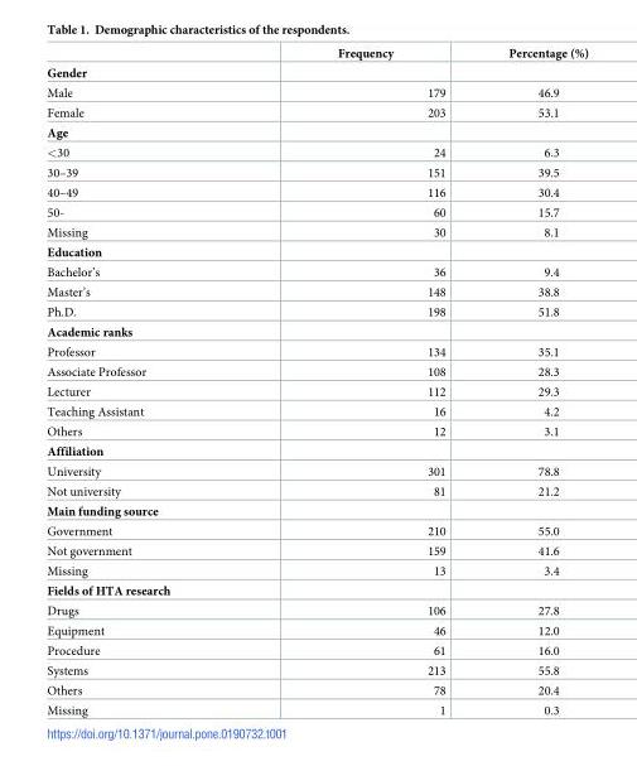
<table><thead><tr><td></td><td>Frequency</td><td>Percentage (%)</td></tr></thead><tbody><tr><td colspan="3">Gender</td></tr><tr><td>Male</td><td>179</td><td>46.9</td></tr><tr><td>Female</td><td>203</td><td>53.1</td></tr><tr><td colspan="3">Age</td></tr><tr><td>&lt;30</td><td>24</td><td>6.3</td></tr><tr><td>30–39</td><td>151</td><td>39.5</td></tr><tr><td>40–49</td><td>116</td><td>30.4</td></tr><tr><td>50-</td><td>60</td><td>15.7</td></tr><tr><td>Missing</td><td>30</td><td>8.1</td></tr><tr><td colspan="3">Education</td></tr><tr><td>Bachelor’s</td><td>36</td><td>9.4</td></tr><tr><td>Master’s</td><td>148</td><td>38.8</td></tr><tr><td>Ph.D.</td><td>198</td><td>51.8</td></tr><tr><td colspan="3">Academic ranks</td></tr><tr><td>Professor</td><td>134</td><td>35.1</td></tr><tr><td>Associate Professor</td><td>108</td><td>28.3</td></tr><tr><td>Lecturer</td><td>112</td><td>29.3</td></tr><tr><td>Teaching Assistant</td><td>16</td><td>4.2</td></tr><tr><td>Others</td><td>12</td><td>3.1</td></tr><tr><td colspan="3">Affiliation</td></tr><tr><td>University</td><td>301</td><td>78.8</td></tr><tr><td>Not university</td><td>81</td><td>21.2</td></tr><tr><td colspan="3">Main funding source</td></tr><tr><td>Government</td><td>210</td><td>55.0</td></tr><tr><td>Not government</td><td>159</td><td>41.6</td></tr><tr><td>Missing</td><td>13</td><td>3.4</td></tr><tr><td colspan="3">Fields of HTA research</td></tr><tr><td>Drugs</td><td>106</td><td>27.8</td></tr><tr><td>Equipment</td><td>46</td><td>12.0</td></tr><tr><td>Procedure</td><td>61</td><td>16.0</td></tr><tr><td>Systems</td><td>213</td><td>55.8</td></tr><tr><td>Others</td><td>78</td><td>20.4</td></tr><tr><td>Missing</td><td>1</td><td>0.3</td></tr></tbody></table>